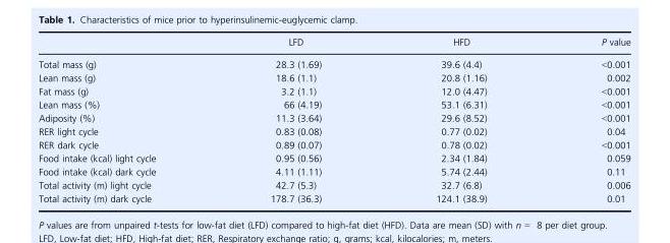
<table><thead><tr><td></td><td>LFD</td><td>HFD</td><td>P value</td></tr></thead><tbody><tr><td>Total mass (g)</td><td>28.3 (1.69)</td><td>39.6 (4.4)</td><td>&lt;0.001</td></tr><tr><td>Lean mass (g)</td><td>18.6 (1.1)</td><td>20.8 (1.16)</td><td>0.002</td></tr><tr><td>Fat mass (g)</td><td>3.2 (1.1)</td><td>12.0 (4.47)</td><td>&lt;0.001</td></tr><tr><td>Lean mass (%)</td><td>66 (4.19)</td><td>53.1 (6.31)</td><td>&lt;0.001</td></tr><tr><td>Adiposity (%)</td><td>11.3 (3.64)</td><td>29.6 (8.52)</td><td>&lt;0.001</td></tr><tr><td>RER light cycle</td><td>0.83 (0.08)</td><td>0.77 (0.02)</td><td>0.04</td></tr><tr><td>RER dark cycle</td><td>0.89 (0.07)</td><td>0.78 (0.02)</td><td>&lt;0.001</td></tr><tr><td>Food intake (kcal) light cycle</td><td>0.95 (0.56)</td><td>2.34 (1.84)</td><td>0.059</td></tr><tr><td>Food intake (kcal) dark cycle</td><td>4.11 (1.11)</td><td>5.74 (2.44)</td><td>0.11</td></tr><tr><td>Total activity (m) light cycle</td><td>42.7 (5.3)</td><td>32.7 (6.8)</td><td>0.006</td></tr><tr><td>Total activity (m) dark cycle</td><td>178.7 (36.3)</td><td>124.1 (38.9)</td><td>0.01</td></tr></tbody></table>